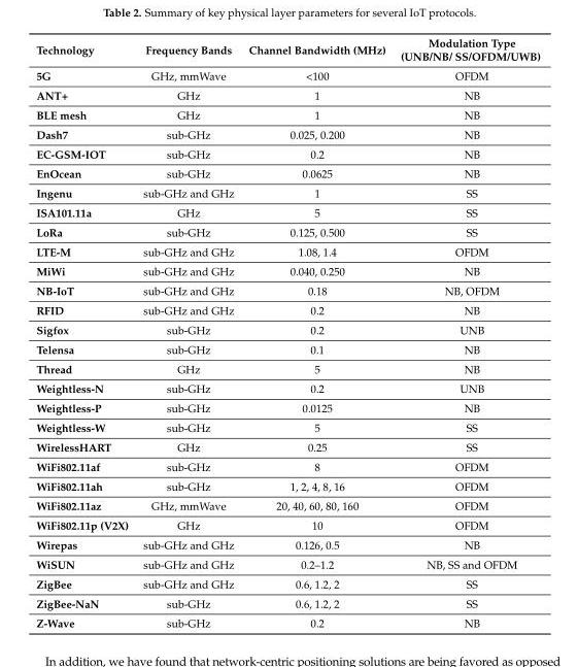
<table><thead><tr><td>Technology</td><td>Frequency Bands</td><td>Channel Bandwidth (MHz)</td><td>Modulation Type (UNB/NB/ SS/OFDM/UWB)</td></tr></thead><tbody><tr><td>5G</td><td>GHz, mmWave</td><td>&lt;100</td><td>OFDM</td></tr><tr><td>ANT+</td><td>GHz</td><td>1</td><td>NB</td></tr><tr><td>BLE mesh</td><td>GHz</td><td>1</td><td>NB</td></tr><tr><td>Dash7</td><td>sub-GHz</td><td>0.025, 0.200</td><td>NB</td></tr><tr><td>EC-GSM-IOT</td><td>sub-GHz</td><td>0.2</td><td>NB</td></tr><tr><td>EnOcean</td><td>sub-GHz</td><td>0.0625</td><td>NB</td></tr><tr><td>Ingenu</td><td>sub-GHz and GHz</td><td>1</td><td>SS</td></tr><tr><td>ISA101.11a</td><td>GHz</td><td>5</td><td>SS</td></tr><tr><td>LoRa</td><td>sub-GHz</td><td>0.125, 0.500</td><td>SS</td></tr><tr><td>LTE-M</td><td>sub-GHz and GHz</td><td>1.08, 1.4</td><td>OFDM</td></tr><tr><td>MiWi</td><td>sub-GHz and GHz</td><td>0.040, 0.250</td><td>NB</td></tr><tr><td>NB-IoT</td><td>sub-GHz and GHz</td><td>0.18</td><td>NB, OFDM</td></tr><tr><td>RFID</td><td>sub-GHz and GHz</td><td>0.2</td><td>NB</td></tr><tr><td>Sigfox</td><td>sub-GHz</td><td>0.2</td><td>UNB</td></tr><tr><td>Telensa</td><td>sub-GHz</td><td>0.1</td><td>NB</td></tr><tr><td>Thread</td><td>GHz</td><td>5</td><td>NB</td></tr><tr><td>Weightless-N</td><td>sub-GHz</td><td>0.2</td><td>UNB</td></tr><tr><td>Weightless-P</td><td>sub-GHz</td><td>0.0125</td><td>NB</td></tr><tr><td>Weightless-W</td><td>sub-GHz</td><td>5</td><td>SS</td></tr><tr><td>WirelessHART</td><td>GHz</td><td>0.25</td><td>SS</td></tr><tr><td>WiFi802.11af</td><td>sub-GHz</td><td>8</td><td>OFDM</td></tr><tr><td>WiFi802.11ah</td><td>sub-GHz</td><td>1, 2, 4, 8, 16</td><td>OFDM</td></tr><tr><td>WiFi802.11az</td><td>GHz, mmWave</td><td>20, 40, 60, 80, 160</td><td>OFDM</td></tr><tr><td>WiFi802.11p (V2X)</td><td>GHz</td><td>10</td><td>OFDM</td></tr><tr><td>Wirepas</td><td>sub-GHz and GHz</td><td>0.126, 0.5</td><td>NB</td></tr><tr><td>WiSUN</td><td>sub-GHz and GHz</td><td>0.2–1.2</td><td>NB, SS and OFDM</td></tr><tr><td>ZigBee</td><td>sub-GHz and GHz</td><td>0.6, 1.2, 2</td><td>SS</td></tr><tr><td>ZigBee-NaN</td><td>sub-GHz</td><td>0.6, 1.2, 2</td><td>SS</td></tr><tr><td>Z-Wave</td><td>sub-GHz</td><td>0.2</td><td>NB</td></tr></tbody></table>